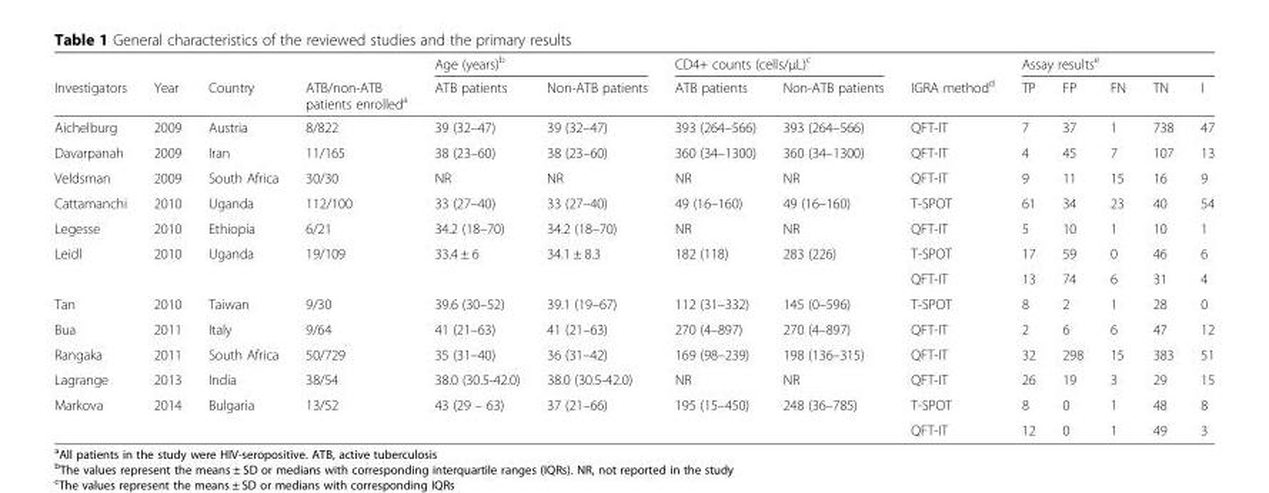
<table><thead><tr><td rowspan="2">Investigators</td><td rowspan="2">Year</td><td rowspan="2">Country</td><td rowspan="2">ATB/non-ATB patients enrolled<sup>a</sup></td><td colspan="2">Age (years)<sup>b</sup></td><td colspan="2">CD4+ counts (cells/μL)<sup>c</sup></td><td rowspan="2">IGRA method<sup>d</sup></td><td colspan="5">Assay results<sup>e</sup></td></tr><tr><td>ATB patients</td><td>Non-ATB patients</td><td>ATB patients</td><td>Non-ATB patients</td><td>TP</td><td>FP</td><td>FN</td><td>TN</td><td>I</td></tr></thead><tbody><tr><td>Aichelburg</td><td>2009</td><td>Austria</td><td>8/822</td><td>39 (32–47)</td><td>39 (32–47)</td><td>393 (264–566)</td><td>393 (264–566)</td><td>QFT-IT</td><td>7</td><td>37</td><td>1</td><td>738</td><td>47</td></tr><tr><td>Davarpanah</td><td>2009</td><td>Iran</td><td>11/165</td><td>38 (23–60)</td><td>38 (23–60)</td><td>360 (34–1300)</td><td>360 (34–1300)</td><td>QFT-IT</td><td>4</td><td>45</td><td>7</td><td>107</td><td>13</td></tr><tr><td>Veldsman</td><td>2009</td><td>South Africa</td><td>30/30</td><td>NR</td><td>NR</td><td>NR</td><td>NR</td><td>QFT-IT</td><td>9</td><td>11</td><td>15</td><td>16</td><td>9</td></tr><tr><td>Cattamanchi</td><td>2010</td><td>Uganda</td><td>112/100</td><td>33 (27–40)</td><td>33 (27–40)</td><td>49 (16–160)</td><td>49 (16–160)</td><td>T-SPOT</td><td>61</td><td>34</td><td>23</td><td>40</td><td>54</td></tr><tr><td>Legesse</td><td>2010</td><td>Ethiopia</td><td>6/21</td><td>34.2 (18–70)</td><td>34.2 (18–70)</td><td>NR</td><td>NR</td><td>QFT-IT</td><td>5</td><td>10</td><td>1</td><td>10</td><td>1</td></tr><tr><td rowspan="2">Leidl</td><td>2010</td><td>Uganda</td><td>19/109</td><td>33.4 ± 6</td><td>34.1 ± 8.3</td><td>182 (118)</td><td>283 (226)</td><td>T-SPOT</td><td>17</td><td>59</td><td>0</td><td>46</td><td>6</td></tr><tr><td></td><td></td><td></td><td></td><td></td><td></td><td></td><td>QFT-IT</td><td>13</td><td>74</td><td>6</td><td>31</td><td>4</td></tr><tr><td>Tan</td><td>2010</td><td>Taiwan</td><td>9/30</td><td>39.6 (30–52)</td><td>39.1 (19–67)</td><td>112 (31–332)</td><td>145 (0–596)</td><td>T-SPOT</td><td>8</td><td>2</td><td>1</td><td>28</td><td>0</td></tr><tr><td>Bua</td><td>2011</td><td>Italy</td><td>9/64</td><td>41 (21–63)</td><td>41 (21–63)</td><td>270 (4–897)</td><td>270 (4–897)</td><td>QFT-IT</td><td>2</td><td>6</td><td>6</td><td>47</td><td>12</td></tr><tr><td>Rangaka</td><td>2011</td><td>South Africa</td><td>50/729</td><td>35 (31–40)</td><td>36 (31–42)</td><td>169 (98–239)</td><td>198 (136–315)</td><td>QFT-IT</td><td>32</td><td>298</td><td>15</td><td>383</td><td>51</td></tr><tr><td>Lagrange</td><td>2013</td><td>India</td><td>38/54</td><td>38.0 (30.5-42.0)</td><td>38.0 (30.5-42.0)</td><td>NR</td><td>NR</td><td>QFT-IT</td><td>26</td><td>19</td><td>3</td><td>29</td><td>15</td></tr><tr><td rowspan="2">Markova</td><td>2014</td><td>Bulgaria</td><td>13/52</td><td>43 (29 – 63)</td><td>37 (21–66)</td><td>195 (15–450)</td><td>248 (36–785)</td><td>T-SPOT</td><td>8</td><td>0</td><td>1</td><td>48</td><td>8</td></tr><tr><td></td><td></td><td></td><td></td><td></td><td></td><td></td><td>QFT-IT</td><td>12</td><td>0</td><td>1</td><td>49</td><td>3</td></tr></tbody></table>